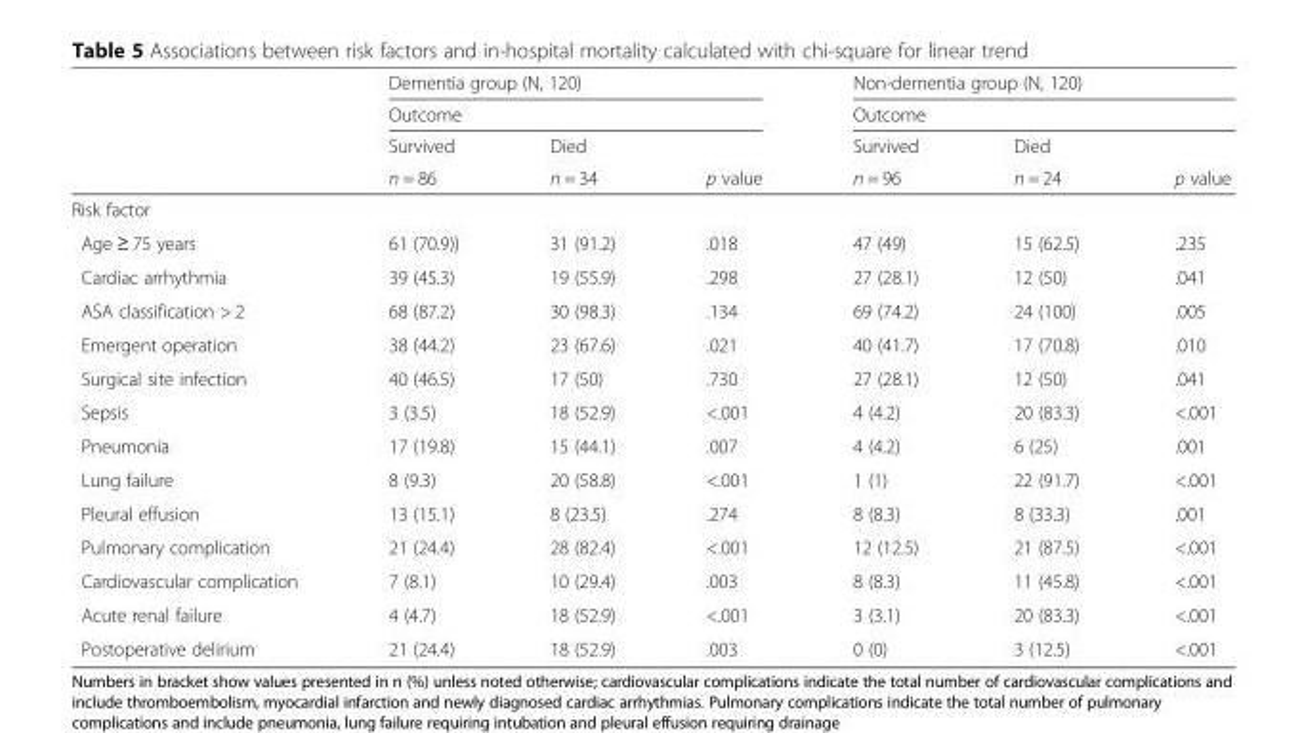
<table><thead><tr><td rowspan="4"></td><td rowspan="2" colspan="3">Dementia group (N, 120) Outcome</td><td rowspan="2" colspan="3">Non-dementia group (N, 120) Outcome</td></tr><tr></tr><tr><td rowspan="2">Survived n = 86</td><td rowspan="2">Died n = 34</td><td rowspan="2">p value</td><td rowspan="2">Survived n = 96</td><td rowspan="2">Died n = 24</td><td rowspan="2">p value</td></tr><tr></tr></thead><tbody><tr><td colspan="7">Risk factor</td></tr><tr><td>Age ≥ 75 years</td><td>61 (70.9))</td><td>31 (91.2)</td><td>.018</td><td>47 (49)</td><td>15 (62.5)</td><td>.235</td></tr><tr><td>Cardiac arrhythmia</td><td>39 (45.3)</td><td>19 (55.9)</td><td>.298</td><td>27 (28.1)</td><td>12 (50)</td><td>.041</td></tr><tr><td>ASA classification &gt; 2</td><td>68 (87.2)</td><td>30 (98.3)</td><td>.134</td><td>69 (74.2)</td><td>24 (100)</td><td>.005</td></tr><tr><td>Emergent operation</td><td>38 (44.2)</td><td>23 (67.6)</td><td>.021</td><td>40 (41.7)</td><td>17 (70.8)</td><td>.010</td></tr><tr><td>Surgical site infection</td><td>40 (46.5)</td><td>17 (50)</td><td>.730</td><td>27 (28.1)</td><td>12 (50)</td><td>.041</td></tr><tr><td>Sepsis</td><td>3 (3.5)</td><td>18 (52.9)</td><td>&lt;.001</td><td>4 (4.2)</td><td>20 (83.3)</td><td>&lt;.001</td></tr><tr><td>Pneumonia</td><td>17 (19.8)</td><td>15 (44.1)</td><td>.007</td><td>4 (4.2)</td><td>6 (25)</td><td>.001</td></tr><tr><td>Lung failure</td><td>8 (9.3)</td><td>20 (58.8)</td><td>&lt;.001</td><td>1 (1)</td><td>22 (91.7)</td><td>&lt;.001</td></tr><tr><td>Pleural effusion</td><td>13 (15.1)</td><td>8 (23.5)</td><td>.274</td><td>8 (8.3)</td><td>8 (33.3)</td><td>.001</td></tr><tr><td>Pulmonary complication</td><td>21 (24.4)</td><td>28 (82.4)</td><td>&lt;.001</td><td>12 (12.5)</td><td>21 (87.5)</td><td>&lt;.001</td></tr><tr><td>Cardiovascular complication</td><td>7 (8.1)</td><td>10 (29.4)</td><td>.003</td><td>8 (8.3)</td><td>11 (45.8)</td><td>&lt;.001</td></tr><tr><td>Acute renal failure</td><td>4 (4.7)</td><td>18 (52.9)</td><td>&lt;.001</td><td>3 (3.1)</td><td>20 (83.3)</td><td>&lt;.001</td></tr><tr><td>Postoperative delirium</td><td>21 (24.4)</td><td>18 (52.9)</td><td>.003</td><td>0 (0)</td><td>3 (12.5)</td><td>&lt;.001</td></tr></tbody></table>